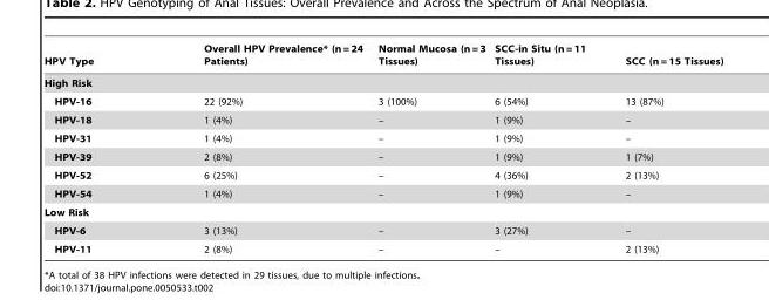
<table><thead><tr><td>HPV Type</td><td>Overall HPV Prevalence* (n = 24 Patients)</td><td>Normal Mucosa (n = 3 Tissues)</td><td>SCC-in Situ (n = 11 Tissues)</td><td>SCC (n = 15 Tissues)</td></tr></thead><tbody><tr><td colspan="5">High Risk</td></tr><tr><td>HPV-16</td><td>22 (92%)</td><td>3 (100%)</td><td>6 (54%)</td><td>13 (87%)</td></tr><tr><td>HPV-18</td><td>1 (4%)</td><td>–</td><td>1 (9%)</td><td>–</td></tr><tr><td>HPV-31</td><td>1 (4%)</td><td>–</td><td>1 (9%)</td><td>–</td></tr><tr><td>HPV-39</td><td>2 (8%)</td><td>–</td><td>1 (9%)</td><td>1 (7%)</td></tr><tr><td>HPV-52</td><td>6 (25%)</td><td>–</td><td>4 (36%)</td><td>2 (13%)</td></tr><tr><td>HPV-54</td><td>1 (4%)</td><td>–</td><td>1 (9%)</td><td>–</td></tr><tr><td colspan="5">Low Risk</td></tr><tr><td>HPV-6</td><td>3 (13%)</td><td>–</td><td>3 (27%)</td><td>–</td></tr><tr><td>HPV-11</td><td>2 (8%)</td><td>–</td><td>–</td><td>2 (13%)</td></tr></tbody></table>